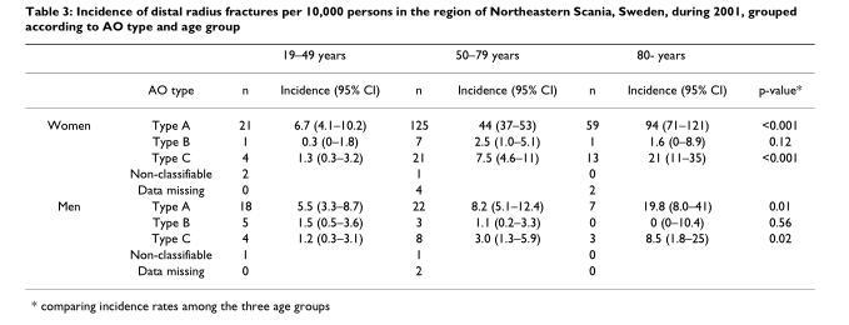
<table><thead><tr><td rowspan="2"></td><td rowspan="2">AO type</td><td colspan="2">19–49 years</td><td colspan="2">50–79 years</td><td colspan="2">80- years</td><td rowspan="2">p-value*</td></tr><tr><td>n</td><td>Incidence (95% CI)</td><td>n</td><td>Incidence (95% CI)</td><td>n</td><td>Incidence (95% CI)</td></tr></thead><tbody><tr><td rowspan="5">Women</td><td>Type A</td><td>21</td><td>6.7 (4.1–10.2)</td><td>125</td><td>44 (37–53)</td><td>59</td><td>94 (71–121)</td><td>&lt;0.001</td></tr><tr><td>Type B</td><td>1</td><td>0.3 (0–1.8)</td><td>7</td><td>2.5 (1.0–5.1)</td><td>1</td><td>1.6 (0–8.9)</td><td>0.12</td></tr><tr><td>Type C</td><td>4</td><td>1.3 (0.3–3.2)</td><td>21</td><td>7.5 (4.6–11)</td><td>13</td><td>21 (11–35)</td><td>&lt;0.001</td></tr><tr><td>Non-classifiable</td><td>2</td><td></td><td>1</td><td></td><td>0</td><td></td><td></td></tr><tr><td>Data missing</td><td>0</td><td></td><td>4</td><td></td><td>2</td><td></td><td></td></tr><tr><td rowspan="5">Men</td><td>Type A</td><td>18</td><td>5.5 (3.3–8.7)</td><td>22</td><td>8.2 (5.1–12.4)</td><td>7</td><td>19.8 (8.0–41)</td><td>0.01</td></tr><tr><td>Type B</td><td>5</td><td>1.5 (0.5–3.6)</td><td>3</td><td>1.1 (0.2–3.3)</td><td>0</td><td>0 (0–10.4)</td><td>0.56</td></tr><tr><td>Type C</td><td>4</td><td>1.2 (0.3–3.1)</td><td>8</td><td>3.0 (1.3–5.9)</td><td>3</td><td>8.5 (1.8–25)</td><td>0.02</td></tr><tr><td>Non-classifiable</td><td>1</td><td></td><td>1</td><td></td><td>0</td><td></td><td></td></tr><tr><td>Data missing</td><td>0</td><td></td><td>2</td><td></td><td>0</td><td></td><td></td></tr></tbody></table>